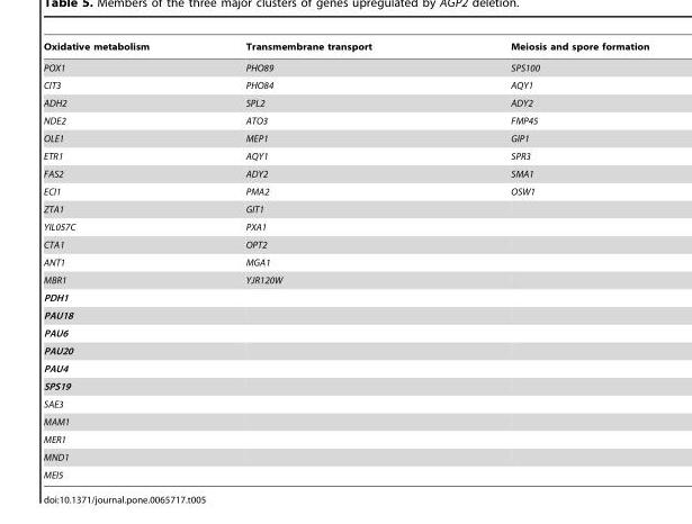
<table><thead><tr><td>Oxidative metabolism</td><td>Transmembrane transport</td><td>Meiosis and spore formation</td></tr></thead><tbody><tr><td>POX1</td><td>PHO89</td><td>SPS100</td></tr><tr><td>CIT3</td><td>PHO84</td><td>AQY1</td></tr><tr><td>ADH2</td><td>SPL2</td><td>ADY2</td></tr><tr><td>NDE2</td><td>ATO3</td><td>FMP45</td></tr><tr><td>OLE1</td><td>MEP1</td><td>GIP1</td></tr><tr><td>ETR1</td><td>AQY1</td><td>SPR3</td></tr><tr><td>FAS2</td><td>ADY2</td><td>SMA1</td></tr><tr><td>ECI1</td><td>PMA2</td><td>OSW1</td></tr><tr><td>ZTA1</td><td>GIT1</td><td></td></tr><tr><td>YIL057C</td><td>PXA1</td><td></td></tr><tr><td>CTA1</td><td>OPT2</td><td></td></tr><tr><td>ANT1</td><td>MGA1</td><td></td></tr><tr><td>MBR1</td><td>YJR120W</td><td></td></tr><tr><td colspan="3">PDH1</td></tr><tr><td colspan="3">PAU18</td></tr><tr><td colspan="3">PAU6</td></tr><tr><td colspan="3">PAU20</td></tr><tr><td colspan="3">PAU4</td></tr><tr><td colspan="3">SPS19</td></tr><tr><td colspan="3">SAE3</td></tr><tr><td colspan="3">MAM1</td></tr><tr><td colspan="3">MER1</td></tr><tr><td colspan="3">MND1</td></tr><tr><td>MEI5</td><td></td><td></td></tr></tbody></table>